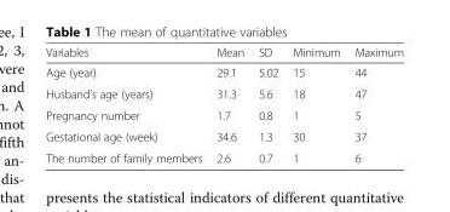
<table><thead><tr><td>Variables</td><td>Mean</td><td>SD</td><td>Minimum</td><td>Maximum</td></tr></thead><tbody><tr><td>Age (year)</td><td>29.1</td><td>5.02</td><td>15</td><td>44</td></tr><tr><td>Husband’s age (years)</td><td>31.3</td><td>5.6</td><td>18</td><td>47</td></tr><tr><td>Pregnancy number</td><td>1.7</td><td>0.8</td><td>1</td><td>5</td></tr><tr><td>Gestational age (week)</td><td>34.6</td><td>1.3</td><td>30</td><td>37</td></tr><tr><td>The number of family members</td><td>2.6</td><td>0.7</td><td>1</td><td>6</td></tr></tbody></table>